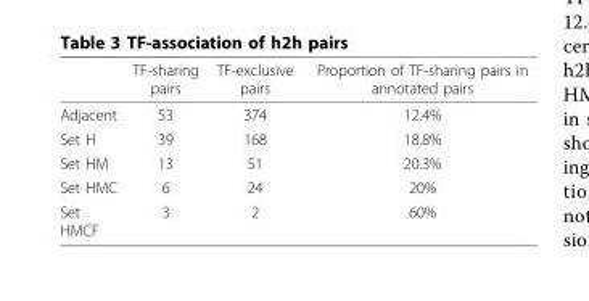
<table><thead><tr><td></td><td>TF-sharing pairs</td><td>TF-exclusive pairs</td><td>Proportion of TF-sharing pairs in annotated pairs</td></tr></thead><tbody><tr><td>Adjacent</td><td>53</td><td>374</td><td>12.4%</td></tr><tr><td>Set H</td><td>39</td><td>168</td><td>18.8%</td></tr><tr><td>Set HM</td><td>13</td><td>51</td><td>20.3%</td></tr><tr><td>Set HMC</td><td>6</td><td>24</td><td>20%</td></tr><tr><td>Set HMCF</td><td>3</td><td>2</td><td>60%</td></tr></tbody></table>